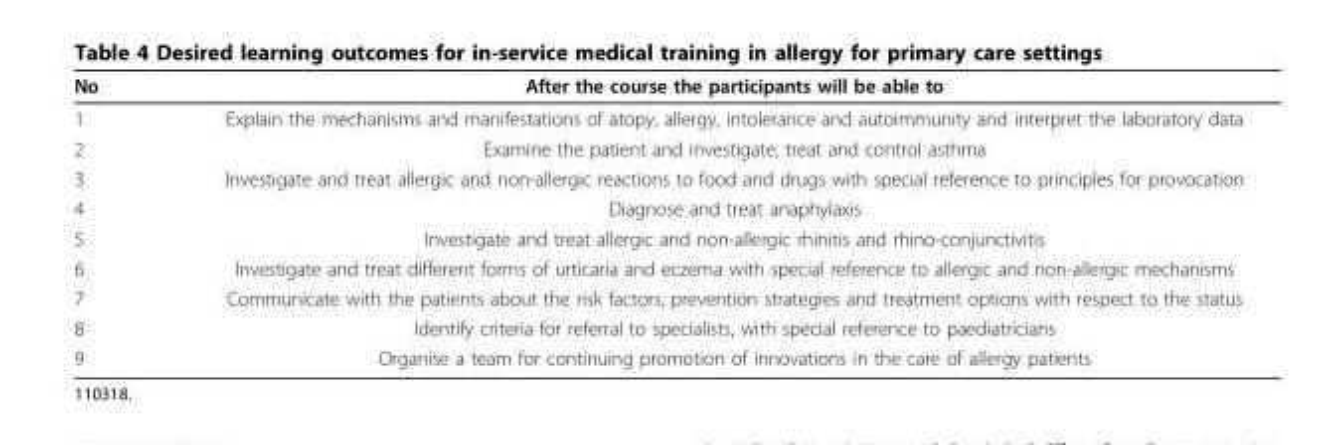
<table><thead><tr><td>No</td><td>After the course the participants will be able to</td></tr></thead><tbody><tr><td>1</td><td>Explain the mechanisms and manifestations of atopy, allergy, intolerance and autoimmunity and interpret the laboratory data</td></tr><tr><td>2</td><td>Examine the patient and investigate, treat and control asthma</td></tr><tr><td>3</td><td>Investigate and treat allergic and non-allergic reactions to food and drugs with special reference to principles for provocation</td></tr><tr><td>4</td><td>Diagnose and treat anaphylaxis</td></tr><tr><td>5</td><td>Investigate and treat allergic and non-allergic rhinitis and rhino-conjunctivitis</td></tr><tr><td>6</td><td>Investigate and treat different forms of urticaria and eczema with special reference to allergic and non-allergic mechanisms</td></tr><tr><td>7</td><td>Communicate with the patients about the risk factors, prevention strategies and treatment options with respect to the status</td></tr><tr><td>8</td><td>Identify criteria for referral to specialists, with special reference to paediatricians</td></tr><tr><td>9</td><td>Organise a team for continuing promotion of innovations in the care of allergy patients</td></tr></tbody></table>